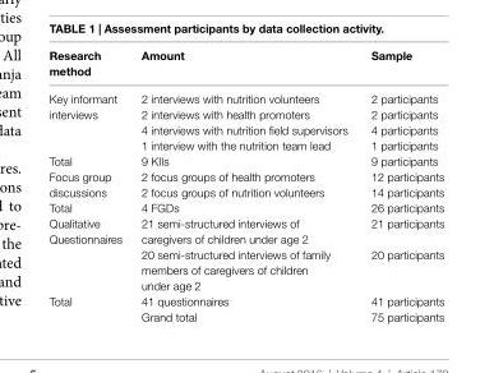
<table><thead><tr><td>research method</td><td>amount</td><td>sample</td></tr></thead><tbody><tr><td rowspan="4">Key informant interviews</td><td>2 interviews with nutrition volunteers</td><td>2 participants</td></tr><tr><td>2 interviews with health promoters</td><td>2 participants</td></tr><tr><td>4 interviews with nutrition field supervisors</td><td>4 participants</td></tr><tr><td>1 interview with the nutrition team lead</td><td>1 participants</td></tr><tr><td>Total</td><td>9 KIIs</td><td>9 participants</td></tr><tr><td rowspan="2">Focus group discussions</td><td>2 focus groups of health promoters</td><td>12 participants</td></tr><tr><td>2 focus groups of nutrition volunteers</td><td>14 participants</td></tr><tr><td>Total</td><td>4 FGDs</td><td>26 participants</td></tr><tr><td rowspan="2">Qualitative Questionnaires</td><td>21 semi-structured interviews of caregivers of children under age 2</td><td>21 participants</td></tr><tr><td>20 semi-structured interviews of family members of caregivers of children under age 2</td><td>20 participants</td></tr><tr><td rowspan="2">Total</td><td>41 questionnaires</td><td>41 participants</td></tr><tr><td>Grand total</td><td>75 participants</td></tr></tbody></table>